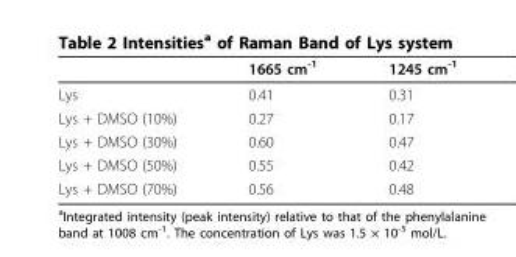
<table><thead><tr><td></td><td>1665 cm<sup>-1</sup></td><td>1245 cm<sup>-1</sup></td></tr></thead><tbody><tr><td>Lys</td><td>0.41</td><td>0.31</td></tr><tr><td>Lys + DMSO (10%)</td><td>0.27</td><td>0.17</td></tr><tr><td>Lys + DMSO (30%)</td><td>0.60</td><td>0.47</td></tr><tr><td>Lys + DMSO (50%)</td><td>0.55</td><td>0.42</td></tr><tr><td>Lys + DMSO (70%)</td><td>0.56</td><td>0.48</td></tr></tbody></table>